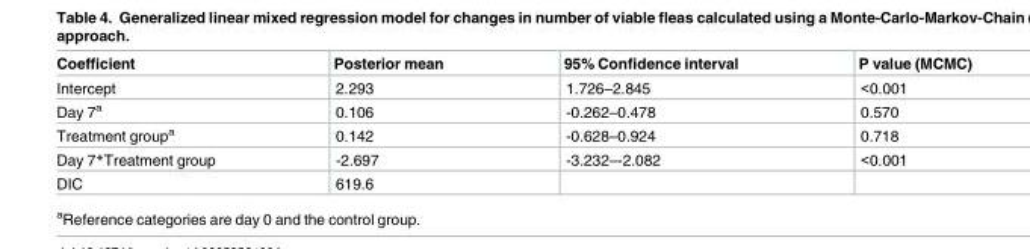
<table><thead><tr><td>Coefficient</td><td>Posterior mean</td><td>95% Confidence interval</td><td>P value (MCMC)</td></tr></thead><tbody><tr><td>Intercept</td><td>2.293</td><td>1.726–2.845</td><td>&lt;0.001</td></tr><tr><td>Day 7<sup>a</sup></td><td>0.106</td><td>-0.262–0.478</td><td>0.570</td></tr><tr><td>Treatment group<sup>a</sup></td><td>0.142</td><td>-0.628–0.924</td><td>0.718</td></tr><tr><td>Day 7*Treatment group</td><td>-2.697</td><td>-3.232–-2.082</td><td>&lt;0.001</td></tr><tr><td>DIC</td><td>619.6</td><td></td><td></td></tr></tbody></table>